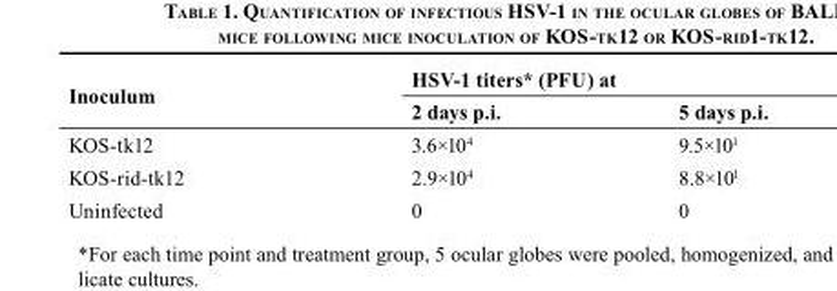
<table><thead><tr><td rowspan="2">Inoculum</td><td colspan="2">HSV-1 titers* (PFU) at</td></tr><tr><td>2 days p.i.</td><td>5 days p.i.</td></tr></thead><tbody><tr><td>KOS-tk12</td><td>3.6×10<sup>4</sup></td><td>9.5×10<sup>1</sup></td></tr><tr><td>KOS-rid-tk12</td><td>2.9×10<sup>4</sup></td><td>8.8×10<sup>1</sup></td></tr><tr><td>Uninfected</td><td>0</td><td>0</td></tr></tbody></table>